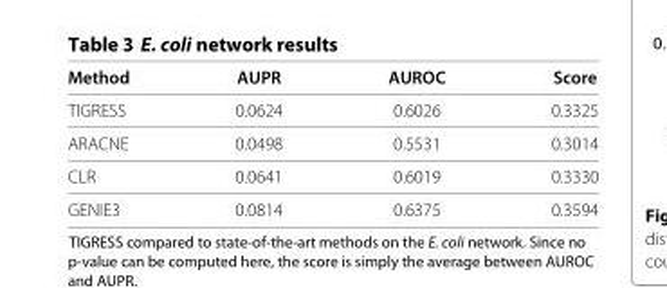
<table><thead><tr><td>Method</td><td>AUPR</td><td>AUROC</td><td>Score</td></tr></thead><tbody><tr><td>TIGRESS</td><td>0.0624</td><td>0.6026</td><td>0.3325</td></tr><tr><td>ARACNE</td><td>0.0498</td><td>0.5531</td><td>0.3014</td></tr><tr><td>CLR</td><td>0.0641</td><td>0.6019</td><td>0.3330</td></tr><tr><td>GENIE3</td><td>0.0814</td><td>0.6375</td><td>0.3594</td></tr></tbody></table>